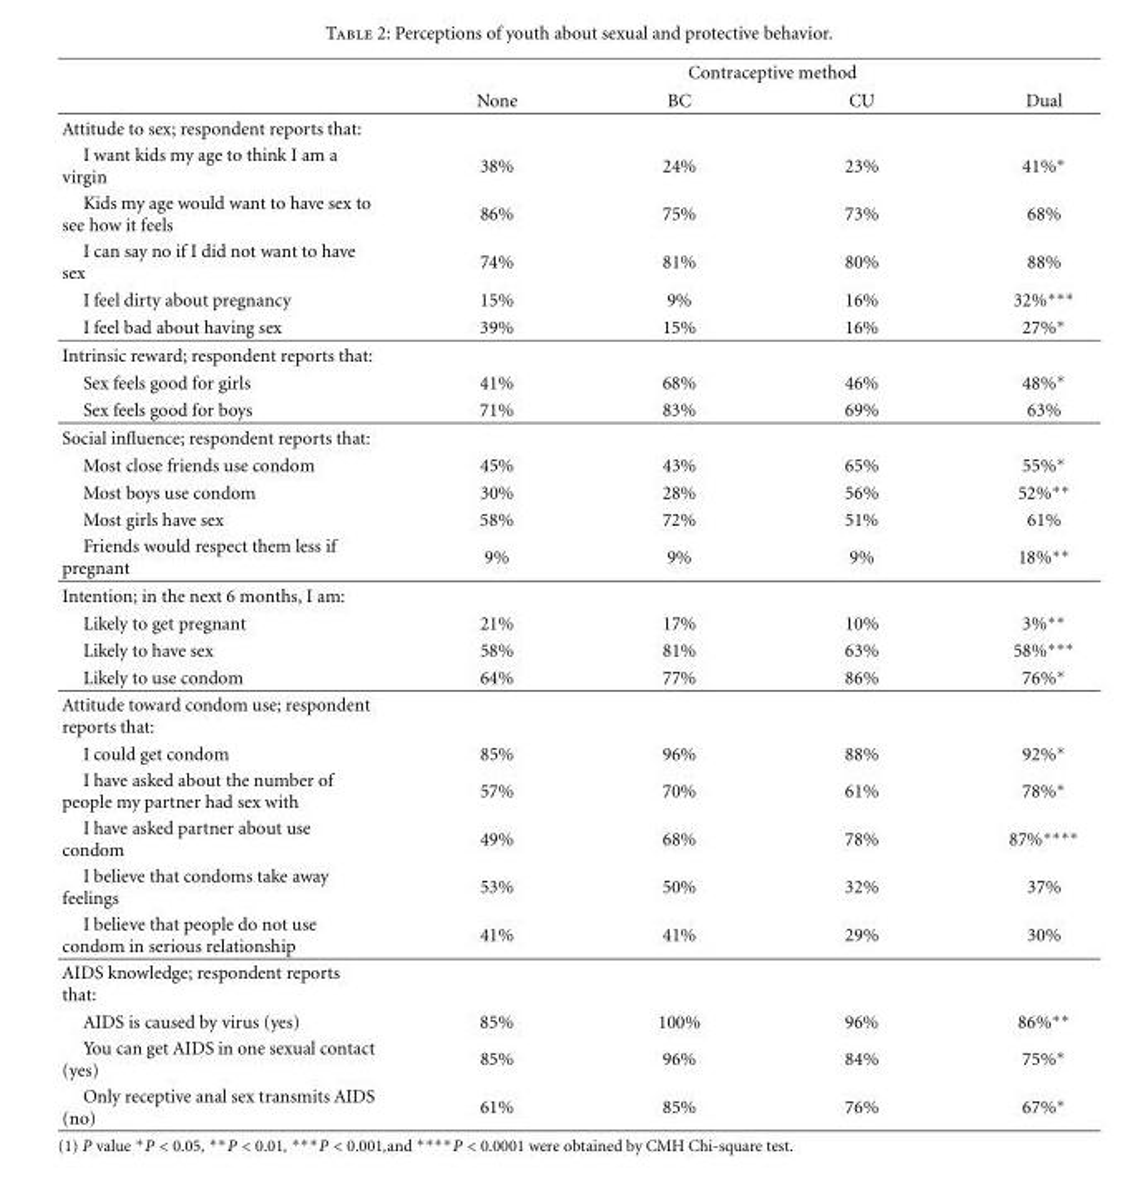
<table><thead><tr><td rowspan="2"></td><td colspan="4">Contraceptive method</td></tr><tr><td>None</td><td>BC</td><td>CU</td><td>Dual</td></tr></thead><tbody><tr><td colspan="5">Attitude to sex; respondent reports that:</td></tr><tr><td>I want kids my age to think I am a virgin</td><td>38%</td><td>24%</td><td>23%</td><td>41%∗</td></tr><tr><td>Kids my age would want to have sex to see how it feels</td><td>86%</td><td>75%</td><td>73%</td><td>68%</td></tr><tr><td>I can say no if I did not want to have sex</td><td>74%</td><td>81%</td><td>80%</td><td>88%</td></tr><tr><td>I feel dirty about pregnancy</td><td>15%</td><td>9%</td><td>16%</td><td>32%∗∗∗</td></tr><tr><td>I feel bad about having sex</td><td>39%</td><td>15%</td><td>16%</td><td>27%∗</td></tr><tr><td colspan="5">Intrinsic reward; respondent reports that:</td></tr><tr><td>Sex feels good for girls</td><td>41%</td><td>68%</td><td>46%</td><td>48%∗</td></tr><tr><td>Sex feels good for boys</td><td>71%</td><td>83%</td><td>69%</td><td>63%</td></tr><tr><td colspan="5">Social influence; respondent reports that:</td></tr><tr><td>Most close friends use condom</td><td>45%</td><td>43%</td><td>65%</td><td>55%∗</td></tr><tr><td>Most boys use condom</td><td>30%</td><td>28%</td><td>56%</td><td>52%∗∗</td></tr><tr><td>Most girls have sex</td><td>58%</td><td>72%</td><td>51%</td><td>61%</td></tr><tr><td>Friends would respect them less if pregnant</td><td>9%</td><td>9%</td><td>9%</td><td>18%∗∗</td></tr><tr><td colspan="5">Intention; in the next 6 months, I am:</td></tr><tr><td>Likely to get pregnant</td><td>21%</td><td>17%</td><td>10%</td><td>3%∗∗</td></tr><tr><td>Likely to have sex</td><td>58%</td><td>81%</td><td>63%</td><td>58%∗∗∗</td></tr><tr><td>Likely to use condom</td><td>64%</td><td>77%</td><td>86%</td><td>76%∗</td></tr><tr><td colspan="5">Attitude toward condom use; respondent reports that:</td></tr><tr><td>I could get condom</td><td>85%</td><td>96%</td><td>88%</td><td>92%∗</td></tr><tr><td>I have asked about the number of people my partner had sex with</td><td>57%</td><td>70%</td><td>61%</td><td>78%∗</td></tr><tr><td>I have asked partner about use condom</td><td>49%</td><td>68%</td><td>78%</td><td>87%∗∗∗∗</td></tr><tr><td>I believe that condoms take away feelings</td><td>53%</td><td>50%</td><td>32%</td><td>37%</td></tr><tr><td>I believe that people do not use condom in serious relationship</td><td>41%</td><td>41%</td><td>29%</td><td>30%</td></tr><tr><td colspan="5">AIDS knowledge; respondent reports that:</td></tr><tr><td>AIDS is caused by virus (yes)</td><td>85%</td><td>100%</td><td>96%</td><td>86%∗∗</td></tr><tr><td>You can get AIDS in one sexual contact (yes)</td><td>85%</td><td>96%</td><td>84%</td><td>75%∗</td></tr><tr><td>Only receptive anal sex transmits AIDS (no)</td><td>61%</td><td>85%</td><td>76%</td><td>67%∗</td></tr></tbody></table>